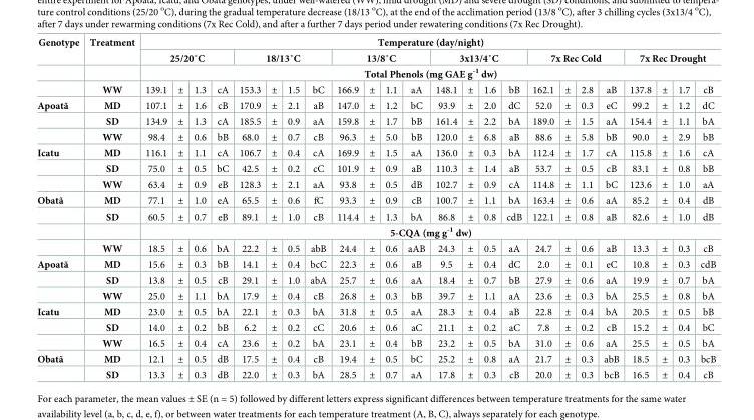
<table><thead><tr><td rowspan="4">Genotype</td><td rowspan="4">Treatment WW</td><td colspan="24">Temperature (day/night)</td></tr><tr><td colspan="4">25/20˚C</td><td colspan="4">18/13˚C</td><td colspan="4">13/8˚C</td><td colspan="4">3x13/4˚C</td><td colspan="4">7x Rec Cold</td><td colspan="4">7x Rec Drought</td></tr><tr><td colspan="24">Total Phenols (mg GAE g<sup>-1</sup> dw)</td></tr><tr><td>139.1</td><td>±</td><td>1.3</td><td>cA</td><td>153.3</td><td>±</td><td>1.5</td><td>bC</td><td>166.9</td><td>±</td><td>1.1</td><td>aA</td><td>148.1</td><td>±</td><td>1.6</td><td>bB</td><td>162.1</td><td>±</td><td>2.8</td><td>aB</td><td>137.8</td><td>±</td><td>1.7</td><td>cB</td></tr></thead><tbody><tr><td rowspan="3">Apoatã</td><td>MD</td><td>107.1</td><td>±</td><td>1.6</td><td>cB</td><td>170.9</td><td>±</td><td>2.1</td><td>aB</td><td>147.0</td><td>±</td><td>1.2</td><td>bC</td><td>93.9</td><td>±</td><td>2.0</td><td>dC</td><td>52.0</td><td>±</td><td>0.3</td><td>eC</td><td>99.2</td><td>±</td><td>1.2</td><td>dC</td></tr><tr><td>SD</td><td>134.9</td><td>±</td><td>1.3</td><td>cA</td><td>185.5</td><td>±</td><td>0.9</td><td>aA</td><td>159.8</td><td>±</td><td>1.7</td><td>bB</td><td>161.4</td><td>±</td><td>2.2</td><td>bA</td><td>189.0</td><td>±</td><td>1.5</td><td>aA</td><td>154.4</td><td>±</td><td>1.1</td><td>bA</td></tr><tr><td>WW</td><td>98.4</td><td>±</td><td>0.6</td><td>bB</td><td>68.0</td><td>±</td><td>0.7</td><td>cB</td><td>96.3</td><td>±</td><td>5.0</td><td>bB</td><td>120.0</td><td>±</td><td>6.8</td><td>aB</td><td>88.6</td><td>±</td><td>5.8</td><td>bB</td><td>90.0</td><td>±</td><td>2.9</td><td>bB</td></tr><tr><td rowspan="3">Icatu</td><td>MD</td><td>116.1</td><td>±</td><td>1.1</td><td>cA</td><td>106.7</td><td>±</td><td>0.4</td><td>cA</td><td>169.9</td><td>±</td><td>1.5</td><td>aA</td><td>136.0</td><td>±</td><td>0.3</td><td>bA</td><td>112.4</td><td>±</td><td>1.7</td><td>cA</td><td>115.8</td><td>±</td><td>1.6</td><td>cA</td></tr><tr><td>SD</td><td>75.0</td><td>±</td><td>0.5</td><td>bC</td><td>42.5</td><td>±</td><td>0.2</td><td>cC</td><td>101.9</td><td>±</td><td>0.9</td><td>aB</td><td>110.3</td><td>±</td><td>1.4</td><td>aB</td><td>53.7</td><td>±</td><td>0.5</td><td>cB</td><td>83.1</td><td>±</td><td>0.8</td><td>bB</td></tr><tr><td>WW</td><td>63.4</td><td>±</td><td>0.9</td><td>eB</td><td>128.3</td><td>±</td><td>2.1</td><td>aA</td><td>93.8</td><td>±</td><td>0.5</td><td>dB</td><td>102.7</td><td>±</td><td>0.9</td><td>cA</td><td>114.8</td><td>±</td><td>1.1</td><td>bC</td><td>123.6</td><td>±</td><td>1.0</td><td>aA</td></tr><tr><td rowspan="4">Obatã</td><td>MD</td><td>77.1</td><td>±</td><td>1.0</td><td>eA</td><td>65.5</td><td>±</td><td>0.6</td><td>fC</td><td>93.3</td><td>±</td><td>0.9</td><td>cB</td><td>100.7</td><td>±</td><td>1.1</td><td>bA</td><td>163.4</td><td>±</td><td>0.6</td><td>aA</td><td>85.2</td><td>±</td><td>0.4</td><td>dB</td></tr><tr><td>SD</td><td>60.5</td><td>±</td><td>0.7</td><td>eB</td><td>89.1</td><td>±</td><td>1.0</td><td>cB</td><td>114.4</td><td>±</td><td>1.3</td><td>bA</td><td>86.8</td><td>±</td><td>0.8</td><td>cdB</td><td>122.1</td><td>±</td><td>0.8</td><td>aB</td><td>82.6</td><td>±</td><td>1.0</td><td>dB</td></tr><tr><td></td><td colspan="24">5-CQA (mg g<sup>-1</sup> dw)</td></tr><tr><td>WW</td><td>18.5</td><td>±</td><td>0.6</td><td>bA</td><td>22.2</td><td>±</td><td>0.5</td><td>abB</td><td>24.4</td><td>±</td><td>0.6</td><td>aAB</td><td>24.3</td><td>±</td><td>0.5</td><td>aA</td><td>24.7</td><td>±</td><td>0.6</td><td>aB</td><td>13.3</td><td>±</td><td>0.3</td><td>cB</td></tr><tr><td rowspan="3">Apoatã</td><td>MD</td><td>15.6</td><td>±</td><td>0.3</td><td>bB</td><td>14.1</td><td>±</td><td>0.4</td><td>bcC</td><td>22.3</td><td>±</td><td>0.6</td><td>aB</td><td>9.5</td><td>±</td><td>0.4</td><td>dC</td><td>2.0</td><td>±</td><td>0.1</td><td>eC</td><td>10.8</td><td>±</td><td>0.3</td><td>cdB</td></tr><tr><td>SD</td><td>13.8</td><td>±</td><td>0.5</td><td>cB</td><td>29.1</td><td>±</td><td>1.0</td><td>abA</td><td>25.7</td><td>±</td><td>0.6</td><td>aA</td><td>18.4</td><td>±</td><td>0.7</td><td>bB</td><td>27.9</td><td>±</td><td>0.6</td><td>aA</td><td>19.9</td><td>±</td><td>0.7</td><td>bA</td></tr><tr><td>WW</td><td>25.0</td><td>±</td><td>1.1</td><td>bA</td><td>17.9</td><td>±</td><td>0.4</td><td>cB</td><td>26.8</td><td>±</td><td>0.3</td><td>bB</td><td>39.7</td><td>±</td><td>1.1</td><td>aA</td><td>23.6</td><td>±</td><td>0.3</td><td>bA</td><td>25.5</td><td>±</td><td>0.8</td><td>bA</td></tr><tr><td rowspan="3">Icatu</td><td>MD</td><td>23.0</td><td>±</td><td>0.5</td><td>bA</td><td>22.1</td><td>±</td><td>0.3</td><td>bA</td><td>31.8</td><td>±</td><td>0.5</td><td>aA</td><td>28.3</td><td>±</td><td>0.4</td><td>aB</td><td>22.8</td><td>±</td><td>0.4</td><td>bA</td><td>20.5</td><td>±</td><td>0.5</td><td>bB</td></tr><tr><td>SD</td><td>14.0</td><td>±</td><td>0.2</td><td>bB</td><td>6.2</td><td>±</td><td>0.2</td><td>cC</td><td>20.6</td><td>±</td><td>0.6</td><td>aC</td><td>21.1</td><td>±</td><td>0.2</td><td>aC</td><td>7.8</td><td>±</td><td>0.2</td><td>cB</td><td>15.2</td><td>±</td><td>0.4</td><td>bC</td></tr><tr><td>WW</td><td>16.5</td><td>±</td><td>0.4</td><td>cA</td><td>23.6</td><td>±</td><td>0.2</td><td>bA</td><td>23.1</td><td>±</td><td>0.4</td><td>bB</td><td>23.2</td><td>±</td><td>0.5</td><td>bA</td><td>31.0</td><td>±</td><td>0.6</td><td>aA</td><td>25.5</td><td>±</td><td>0.5</td><td>bA</td></tr><tr><td rowspan="2">Obatã</td><td>MD</td><td>12.1</td><td>±</td><td>0.5</td><td>dB</td><td>17.5</td><td>±</td><td>0.4</td><td>cB</td><td>19.4</td><td>±</td><td>0.5</td><td>bC</td><td>25.2</td><td>±</td><td>0.8</td><td>aA</td><td>21.7</td><td>±</td><td>0.3</td><td>abB</td><td>18.5</td><td>±</td><td>0.3</td><td>bcB</td></tr><tr><td>SD</td><td>13.3</td><td>±</td><td>0.3</td><td>dB</td><td>22.0</td><td>±</td><td>0.3</td><td>bA</td><td>28.5</td><td>±</td><td>0.7</td><td>aA</td><td>17.8</td><td>±</td><td>0.3</td><td>cB</td><td>20.0</td><td>±</td><td>0.3</td><td>bcB</td><td>16.5</td><td>±</td><td>0.4</td><td>cB</td></tr></tbody></table>